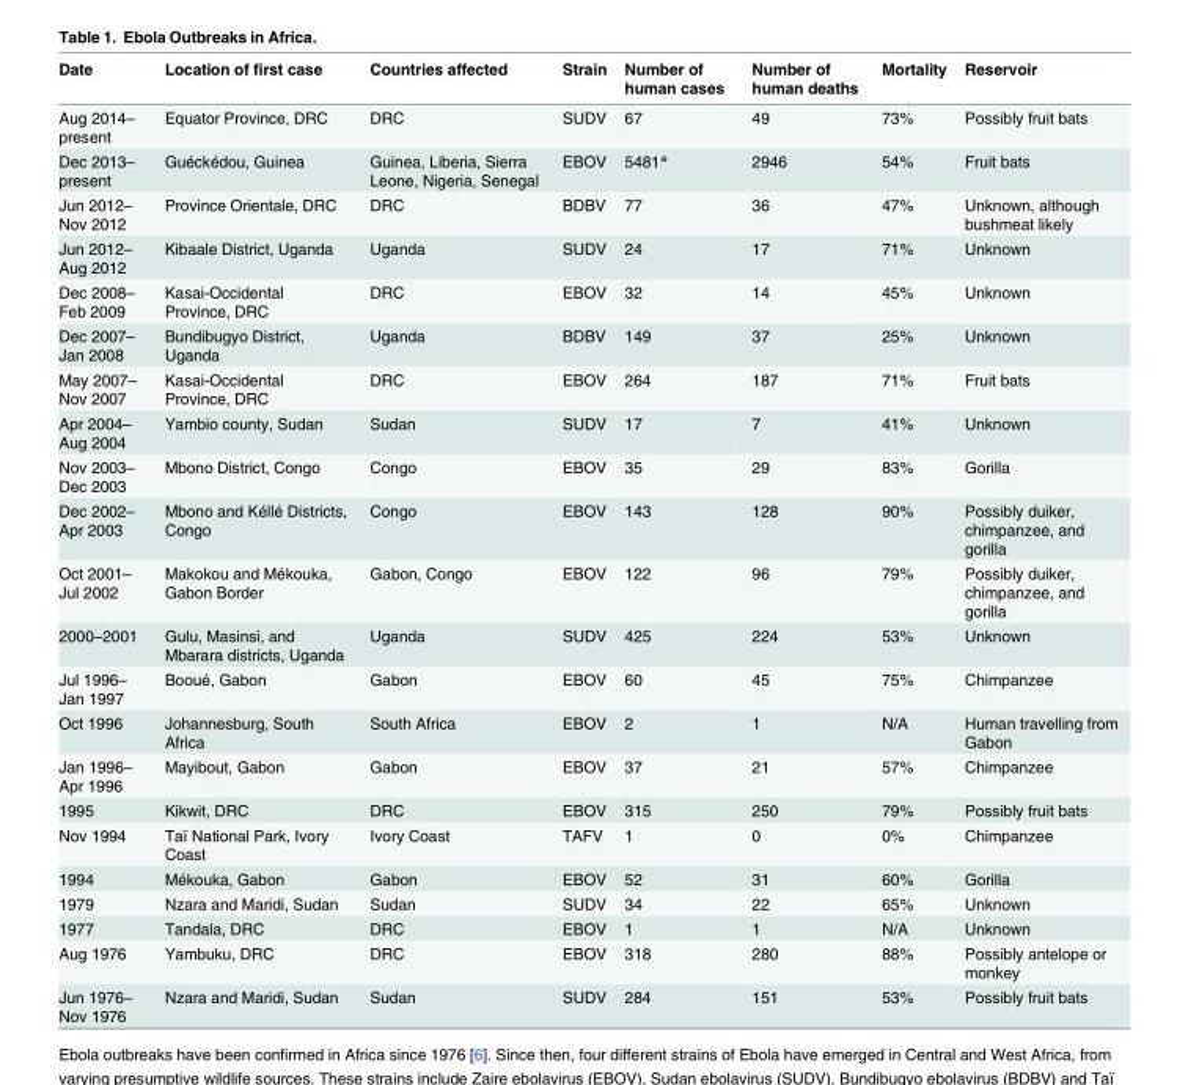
<table><thead><tr><td>Date</td><td>Location of first case</td><td>Countries affected</td><td>Strain</td><td>Number of human cases</td><td>Number of human deaths</td><td>Mortality</td><td>Reservoir</td></tr></thead><tbody><tr><td>Aug 2014– present</td><td>Equator Province, DRC</td><td>DRC</td><td>SUDV</td><td>67</td><td>49</td><td>73%</td><td>Possibly fruit bats</td></tr><tr><td>Dec 2013– present</td><td>Guéckédou, Guinea</td><td>Guinea, Liberia, Sierra Leone, Nigeria, Senegal</td><td>EBOV</td><td>5481*</td><td>2946</td><td>54%</td><td>Fruit bats</td></tr><tr><td>Jun 2012– Nov 2012</td><td>Province Orientale, DRC</td><td>DRC</td><td>BDBV</td><td>77</td><td>36</td><td>47%</td><td>Unknown, although bushmeat likely</td></tr><tr><td>Jun 2012– Aug 2012</td><td>Kibaale District, Uganda</td><td>Uganda</td><td>SUDV</td><td>24</td><td>17</td><td>71%</td><td>Unknown</td></tr><tr><td>Dec 2008– Feb 2009</td><td>Kasai-Occidental Province, DRC</td><td>DRC</td><td>EBOV</td><td>32</td><td>14</td><td>45%</td><td>Unknown</td></tr><tr><td>Dec 2007– Jan 2008</td><td>Bundibugyo District, Uganda</td><td>Uganda</td><td>BDBV</td><td>149</td><td>37</td><td>25%</td><td>Unknown</td></tr><tr><td>May 2007– Nov 2007</td><td>Kasai-Occidental Province, DRC</td><td>DRC</td><td>EBOV</td><td>264</td><td>187</td><td>71%</td><td>Fruit bats</td></tr><tr><td>Apr 2004– Aug 2004</td><td>Yambio county, Sudan</td><td>Sudan</td><td>SUDV</td><td>17</td><td>7</td><td>41%</td><td>Unknown</td></tr><tr><td>Nov 2003– Dec 2003</td><td>Mbono District, Congo</td><td>Congo</td><td>EBOV</td><td>35</td><td>29</td><td>83%</td><td>Gorilla</td></tr><tr><td>Dec 2002– Apr 2003</td><td>Mbono and Kéllé Districts, Congo</td><td>Congo</td><td>EBOV</td><td>143</td><td>128</td><td>90%</td><td>Possibly duiker, chimpanzee, and gorilla</td></tr><tr><td>Oct 2001– Jul 2002</td><td>Makokou and Mékouka, Gabon Border</td><td>Gabon, Congo</td><td>EBOV</td><td>122</td><td>96</td><td>79%</td><td>Possibly duiker, chimpanzee, and gorilla</td></tr><tr><td>2000–2001</td><td>Gulu, Masinsi, and Mbarara districts, Uganda</td><td>Uganda</td><td>SUDV</td><td>425</td><td>224</td><td>53%</td><td>Unknown</td></tr><tr><td>Jul 1996– Jan 1997</td><td>Booué, Gabon</td><td>Gabon</td><td>EBOV</td><td>60</td><td>45</td><td>75%</td><td>Chimpanzee</td></tr><tr><td>Oct 1996</td><td>Johannesburg, South Africa</td><td>South Africa</td><td>EBOV</td><td>2</td><td>1</td><td>N/A</td><td>Human travelling from Gabon</td></tr><tr><td>Jan 1996– Apr 1996</td><td>Mayibout, Gabon</td><td>Gabon</td><td>EBOV</td><td>37</td><td>21</td><td>57%</td><td>Chimpanzee</td></tr><tr><td>1995</td><td>Kikwit, DRC</td><td>DRC</td><td>EBOV</td><td>315</td><td>250</td><td>79%</td><td>Possibly fruit bats</td></tr><tr><td>Nov 1994</td><td>Taï National Park, Ivory Coast</td><td>Ivory Coast</td><td>TAFV</td><td>1</td><td>0</td><td>0%</td><td>Chimpanzee</td></tr><tr><td>1994</td><td>Mékouka, Gabon</td><td>Gabon</td><td>EBOV</td><td>52</td><td>31</td><td>60%</td><td>Gorilla</td></tr><tr><td>1979</td><td>Nzara and Maridi, Sudan</td><td>Sudan</td><td>SUDV</td><td>34</td><td>22</td><td>65%</td><td>Unknown</td></tr><tr><td>1977</td><td>Tandala, DRC</td><td>DRC</td><td>EBOV</td><td>1</td><td>1</td><td>N/A</td><td>Unknown</td></tr><tr><td>Aug 1976</td><td>Yambuku, DRC</td><td>DRC</td><td>EBOV</td><td>318</td><td>280</td><td>88%</td><td>Possibly antelope or monkey</td></tr><tr><td>Jun 1976– Nov 1976</td><td>Nzara and Maridi, Sudan</td><td>Sudan</td><td>SUDV</td><td>284</td><td>151</td><td>53%</td><td>Possibly fruit bats</td></tr></tbody></table>